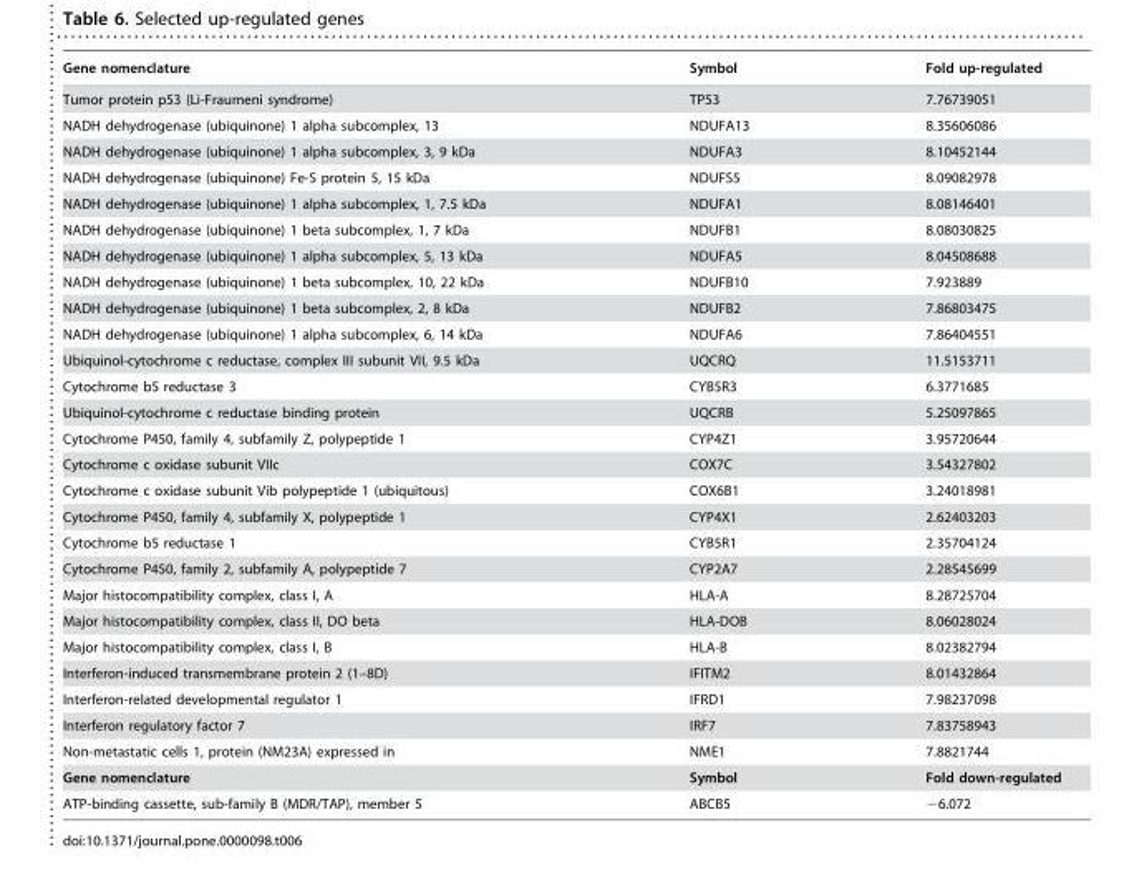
<table><thead><tr><td>Gene nomenclature</td><td>Symbol</td><td>Fold up-regulated</td></tr></thead><tbody><tr><td>Tumor protein p53 (Li-Fraumeni syndrome)</td><td>TP53</td><td>7.76739051</td></tr><tr><td>NADH dehydrogenase (ubiquinone) 1 alpha subcomplex, 13</td><td>NDUFA13</td><td>8.35606086</td></tr><tr><td>NADH dehydrogenase (ubiquinone) 1 alpha subcomplex, 3, 9 kDa</td><td>NDUFA3</td><td>8.10452144</td></tr><tr><td>NADH dehydrogenase (ubiquinone) Fe-S protein 5, 15 kDa</td><td>NDUFS5</td><td>8.09082978</td></tr><tr><td>NADH dehydrogenase (ubiquinone) 1 alpha subcomplex, 1, 7.5 kDa</td><td>NDUFA1</td><td>8.08146401</td></tr><tr><td>NADH dehydrogenase (ubiquinone) 1 beta subcomplex, 1, 7 kDa</td><td>NDUFB1</td><td>8.08030825</td></tr><tr><td>NADH dehydrogenase (ubiquinone) 1 alpha subcomplex, 5, 13 kDa</td><td>NDUFA5</td><td>8.04508688</td></tr><tr><td>NADH dehydrogenase (ubiquinone) 1 beta subcomplex, 10, 22 kDa</td><td>NDUFB10</td><td>7.923889</td></tr><tr><td>NADH dehydrogenase (ubiquinone) 1 beta subcomplex, 2, 8 kDa</td><td>NDUFB2</td><td>7.86803475</td></tr><tr><td>NADH dehydrogenase (ubiquinone) 1 alpha subcomplex, 6, 14 kDa</td><td>NDUFA6</td><td>7.86404551</td></tr><tr><td>Ubiquinol-cytochrome c reductase, complex III subunit VII, 9.5 kDa</td><td>UQCRQ</td><td>11.5153711</td></tr><tr><td>Cytochrome b5 reductase 3</td><td>CYB5R3</td><td>6.3771685</td></tr><tr><td>Ubiquinol-cytochrome c reductase binding protein</td><td>UQCRB</td><td>5.25097865</td></tr><tr><td>Cytochrome P450, family 4, subfamily Z, polypeptide 1</td><td>CYP4Z1</td><td>3.95720644</td></tr><tr><td>Cytochrome c oxidase subunit VIIc</td><td>COX7C</td><td>3.54327802</td></tr><tr><td>Cytochrome c oxidase subunit Vib polypeptide 1 (ubiquitous)</td><td>COX6B1</td><td>3.24018981</td></tr><tr><td>Cytochrome P450, family 4, subfamily X, polypeptide 1</td><td>CYP4X1</td><td>2.62403203</td></tr><tr><td>Cytochrome b5 reductase 1</td><td>CYB5R1</td><td>2.35704124</td></tr><tr><td>Cytochrome P450, family 2, subfamily A, polypeptide 7</td><td>CYP2A7</td><td>2.28545699</td></tr><tr><td>Major histocompatibility complex, class I, A</td><td>HLA-A</td><td>8.28725704</td></tr><tr><td>Major histocompatibility complex, class II, DO beta</td><td>HLA-DOB</td><td>8.06028024</td></tr><tr><td>Major histocompatibility complex, class I, B</td><td>HLA-B</td><td>8.02382794</td></tr><tr><td>Interferon-induced transmembrane protein 2 (1–8D)</td><td>IFITM2</td><td>8.01432864</td></tr><tr><td>Interferon-related developmental regulator 1</td><td>IFRD1</td><td>7.98237098</td></tr><tr><td>Interferon regulatory factor 7</td><td>IRF7</td><td>7.83758943</td></tr><tr><td>Non-metastatic cells 1, protein (NM23A) expressed in</td><td>NME1</td><td>7.8821744</td></tr><tr><td>Gene nomenclature</td><td>Symbol</td><td>Fold down-regulated</td></tr><tr><td>ATP-binding cassette, sub-family B (MDR/TAP), member 5</td><td>ABCB5</td><td>−6.072</td></tr></tbody></table>